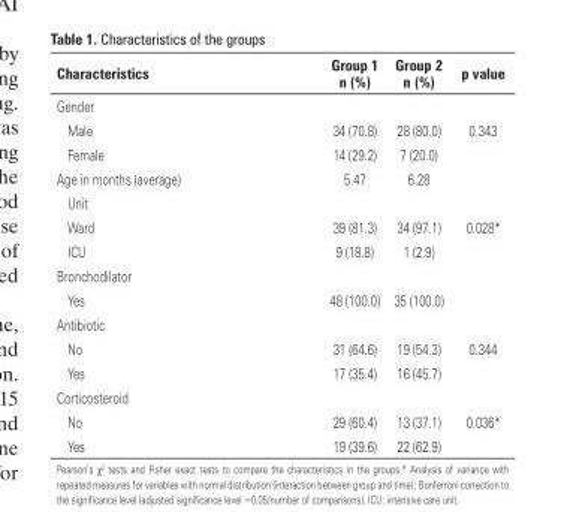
<table><thead><tr><td>Characteristics</td><td>Group 1 n (%)</td><td>Group 2 n (%)</td><td>p value</td></tr></thead><tbody><tr><td colspan="4">Gender</td></tr><tr><td>Male</td><td>34 (70.8)</td><td>28 (80.0)</td><td rowspan="2">0.343</td></tr><tr><td>Female</td><td>14 (29.2)</td><td>7 (20.0)</td></tr><tr><td>Age in months (average)</td><td>5.47</td><td>6.28</td><td></td></tr><tr><td colspan="4">Unit</td></tr><tr><td>Ward</td><td>39 (81.3)</td><td>34 (97.1)</td><td rowspan="2">0.028*</td></tr><tr><td>ICU</td><td>9 (18.8)</td><td>1 (2.9)</td></tr><tr><td colspan="4">Bronchodilator</td></tr><tr><td>Yes</td><td>48 (100.0)</td><td>35 (100.0)</td><td></td></tr><tr><td colspan="4">Antibiotic</td></tr><tr><td>No</td><td>31 (64.6)</td><td>19 (54.3)</td><td rowspan="2">0.344</td></tr><tr><td>Yes</td><td>17 (35.4)</td><td>16 (45.7)</td></tr><tr><td colspan="4">Corticosteroid</td></tr><tr><td>No</td><td>29 (60.4)</td><td>13 (37.1)</td><td rowspan="2">0.036*</td></tr><tr><td>Yes</td><td>19 (39.6)</td><td>22 (62.9)</td></tr></tbody></table>